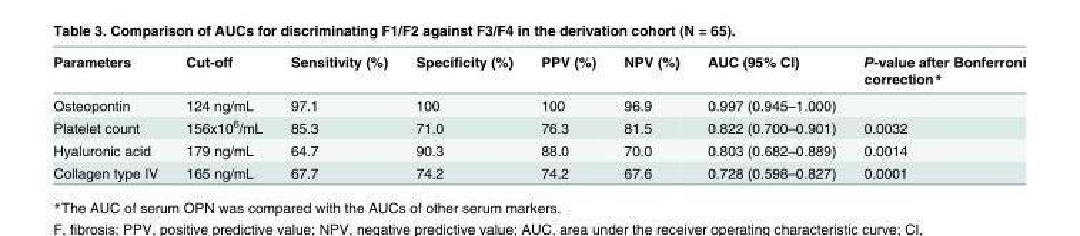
<table><thead><tr><td>Parameters</td><td>Cut-off</td><td>Sensitivity (%)</td><td>Specificity (%)</td><td>PPV (%)</td><td>NPV (%)</td><td>AUC (95% CI)</td><td>P-value after Bonferroni correction*</td></tr></thead><tbody><tr><td>Osteopontin</td><td>124 ng/mL</td><td>97.1</td><td>100</td><td>100</td><td>96.9</td><td>0.997 (0.945–1.000)</td><td></td></tr><tr><td>Platelet count</td><td>156x10<sup>6</sup>/mL</td><td>85.3</td><td>71.0</td><td>76.3</td><td>81.5</td><td>0.822 (0.700–0.901)</td><td>0.0032</td></tr><tr><td>Hyaluronic acid</td><td>179 ng/mL</td><td>64.7</td><td>90.3</td><td>88.0</td><td>70.0</td><td>0.803 (0.682–0.889)</td><td>0.0014</td></tr><tr><td>Collagen type IV</td><td>165 ng/mL</td><td>67.7</td><td>74.2</td><td>74.2</td><td>67.6</td><td>0.728 (0.598–0.827)</td><td>0.0001</td></tr></tbody></table>